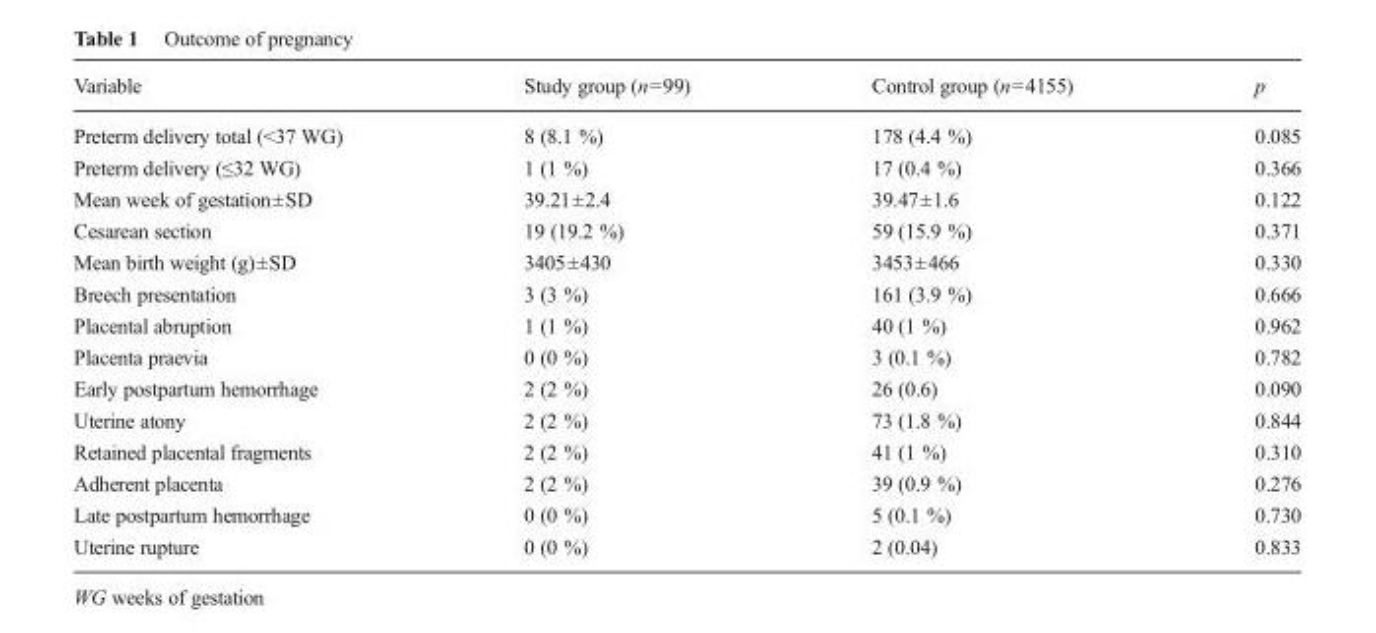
<table><thead><tr><td>Variable</td><td>Study group (n=99)</td><td>Control group (n=4155)</td><td>p</td></tr></thead><tbody><tr><td>Preterm delivery total (&lt;37 WG)</td><td>8 (8.1 %)</td><td>178 (4.4 %)</td><td>0.085</td></tr><tr><td>Preterm delivery (≤32 WG)</td><td>1 (1 %)</td><td>17 (0.4 %)</td><td>0.366</td></tr><tr><td>Mean week of gestation±SD</td><td>39.21±2.4</td><td>39.47±1.6</td><td>0.122</td></tr><tr><td>Cesarean section</td><td>19 (19.2 %)</td><td>59 (15.9 %)</td><td>0.371</td></tr><tr><td>Mean birth weight (g)±SD</td><td>3405±430</td><td>3453±466</td><td>0.330</td></tr><tr><td>Breech presentation</td><td>3 (3 %)</td><td>161 (3.9 %)</td><td>0.666</td></tr><tr><td>Placental abruption</td><td>1 (1 %)</td><td>40 (1 %)</td><td>0.962</td></tr><tr><td>Placenta praevia</td><td>0 (0 %)</td><td>3 (0.1 %)</td><td>0.782</td></tr><tr><td>Early postpartum hemorrhage</td><td>2 (2 %)</td><td>26 (0.6)</td><td>0.090</td></tr><tr><td>Uterine atony</td><td>2 (2 %)</td><td>73 (1.8 %)</td><td>0.844</td></tr><tr><td>Retained placental fragments</td><td>2 (2 %)</td><td>41 (1 %)</td><td>0.310</td></tr><tr><td>Adherent placenta</td><td>2 (2 %)</td><td>39 (0.9 %)</td><td>0.276</td></tr><tr><td>Late postpartum hemorrhage</td><td>0 (0 %)</td><td>5 (0.1 %)</td><td>0.730</td></tr><tr><td>Uterine rupture</td><td>0 (0 %)</td><td>2 (0.04)</td><td>0.833</td></tr></tbody></table>